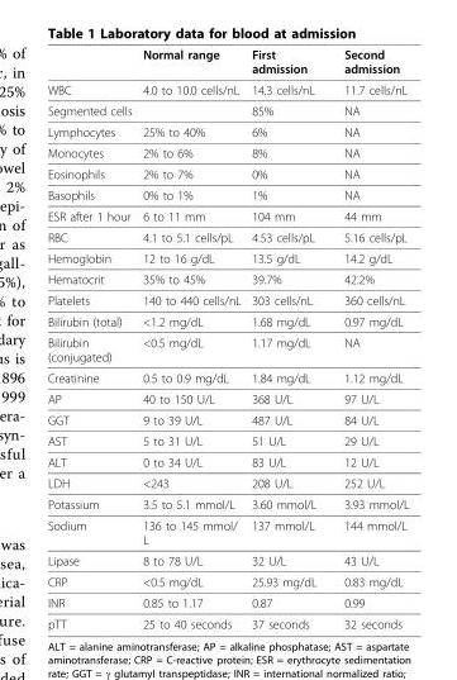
<table><thead><tr><td></td><td>Normal range</td><td>First admission</td><td>Second admission</td></tr></thead><tbody><tr><td>WBC</td><td>4.0 to 10.0 cells/nL</td><td>14.3 cells/nL</td><td>11.7 cells/nL</td></tr><tr><td>Segmented cells</td><td></td><td>85%</td><td>NA</td></tr><tr><td>Lymphocytes</td><td>25% to 40%</td><td>6%</td><td>NA</td></tr><tr><td>Monocytes</td><td>2% to 6%</td><td>8%</td><td>NA</td></tr><tr><td>Eosinophils</td><td>2% to 7%</td><td>0%</td><td>NA</td></tr><tr><td>Basophils</td><td>0% to 1%</td><td>1%</td><td>NA</td></tr><tr><td>ESR after 1 hour</td><td>6 to 11 mm</td><td>104 mm</td><td>44 mm</td></tr><tr><td>RBC</td><td>4.1 to 5.1 cells/pL</td><td>4.53 cells/pL</td><td>5.16 cells/pL</td></tr><tr><td>Hemoglobin</td><td>12 to 16 g/dL</td><td>13.5 g/dL</td><td>14.2 g/dL</td></tr><tr><td>Hematocrit</td><td>35% to 45%</td><td>39.7%</td><td>42.2%</td></tr><tr><td>Platelets</td><td>140 to 440 cells/nL</td><td>303 cells/nL</td><td>360 cells/nL</td></tr><tr><td>Bilirubin (total)</td><td>&lt;1.2 mg/dL</td><td>1.68 mg/dL</td><td>0.97 mg/dL</td></tr><tr><td>Bilirubin (conjugated)</td><td>&lt;0.5 mg/dL</td><td>1.17 mg/dL</td><td>NA</td></tr><tr><td>Creatinine</td><td>0.5 to 0.9 mg/dL</td><td>1.84 mg/dL</td><td>1.12 mg/dL</td></tr><tr><td>AP</td><td>40 to 150 U/L</td><td>368 U/L</td><td>97 U/L</td></tr><tr><td>GGT</td><td>9 to 39 U/L</td><td>487 U/L</td><td>84 U/L</td></tr><tr><td>AST</td><td>5 to 31 U/L</td><td>51 U/L</td><td>29 U/L</td></tr><tr><td>ALT</td><td>0 to 34 U/L</td><td>83 U/L</td><td>12 U/L</td></tr><tr><td>LDH</td><td>&lt;243</td><td>208 U/L</td><td>252 U/L</td></tr><tr><td>Potassium</td><td>3.5 to 5.1 mmol/L</td><td>3.60 mmol/L</td><td>3.93 mmol/L</td></tr><tr><td>Sodium</td><td>136 to 145 mmol/ L</td><td>137 mmol/L</td><td>144 mmol/L</td></tr><tr><td>Lipase</td><td>8 to 78 U/L</td><td>32 U/L</td><td>43 U/L</td></tr><tr><td>CRP</td><td>&lt;0.5 mg/dL</td><td>25.93 mg/dL</td><td>0.83 mg/dL</td></tr><tr><td>INR</td><td>0.85 to 1.17</td><td>0.87</td><td>0.99</td></tr><tr><td>pTT</td><td>25 to 40 seconds</td><td>37 seconds</td><td>32 seconds</td></tr></tbody></table>